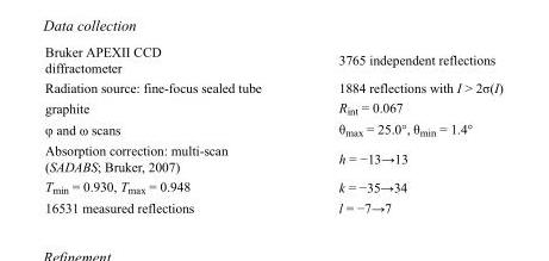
<table><tbody><tr><td>Bruker APEXII CCD diffractometer</td><td>3765 independent reflections</td></tr><tr><td>Radiation source: fine-focus sealed tube</td><td>1884 reflections with I &gt; 2σ(I)</td></tr><tr><td>graphite</td><td>R<sub>int</sub> = 0.067</td></tr><tr><td>φ and ω scans</td><td>θ<sub>max</sub> = 25.0°, θ<sub>min</sub> = 1.4°</td></tr><tr><td>Absorption correction: multi-scan (SADABS; Bruker, 2007)</td><td>h = −13→13</td></tr><tr><td>T<sub>min</sub> = 0.930, T<sub>max</sub> = 0.948</td><td>k = −35→34</td></tr><tr><td>16531 measured reflections</td><td>l = −7→7</td></tr></tbody></table>